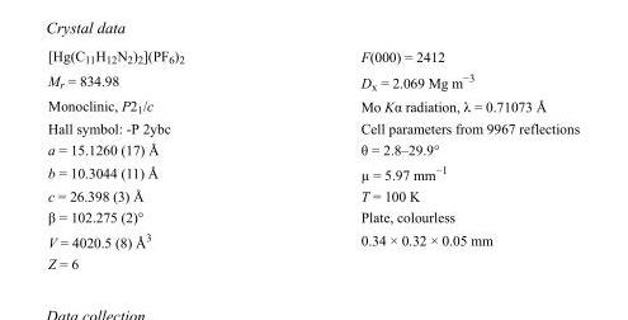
<table><tbody><tr><td>[Hg(C<sub>11</sub>H<sub>12</sub>N<sub>2</sub>)<sub>2</sub>](PF<sub>6</sub>)<sub>2</sub></td><td>F(000) = 2412</td></tr><tr><td>M<sub>r</sub> = 834.98</td><td>D<sub>x</sub> = 2.069 Mg m<sup>−3</sup></td></tr><tr><td>Monoclinic, P2<sub>1</sub>/c</td><td>Mo Kα radiation, λ = 0.71073 Å</td></tr><tr><td>Hall symbol: -P 2ybc</td><td>Cell parameters from 9967 reflections</td></tr><tr><td>a = 15.1260 (17) Å</td><td>θ = 2.8–29.9°</td></tr><tr><td>b = 10.3044 (11) Å</td><td>µ = 5.97 mm<sup>−1</sup></td></tr><tr><td>c = 26.398 (3) Å</td><td>T = 100 K</td></tr><tr><td>β = 102.275 (2)°</td><td>Plate, colourless</td></tr><tr><td>V = 4020.5 (8) Å<sup>3</sup></td><td>0.34 × 0.32 × 0.05 mm</td></tr><tr><td>Z = 6</td><td></td></tr></tbody></table>